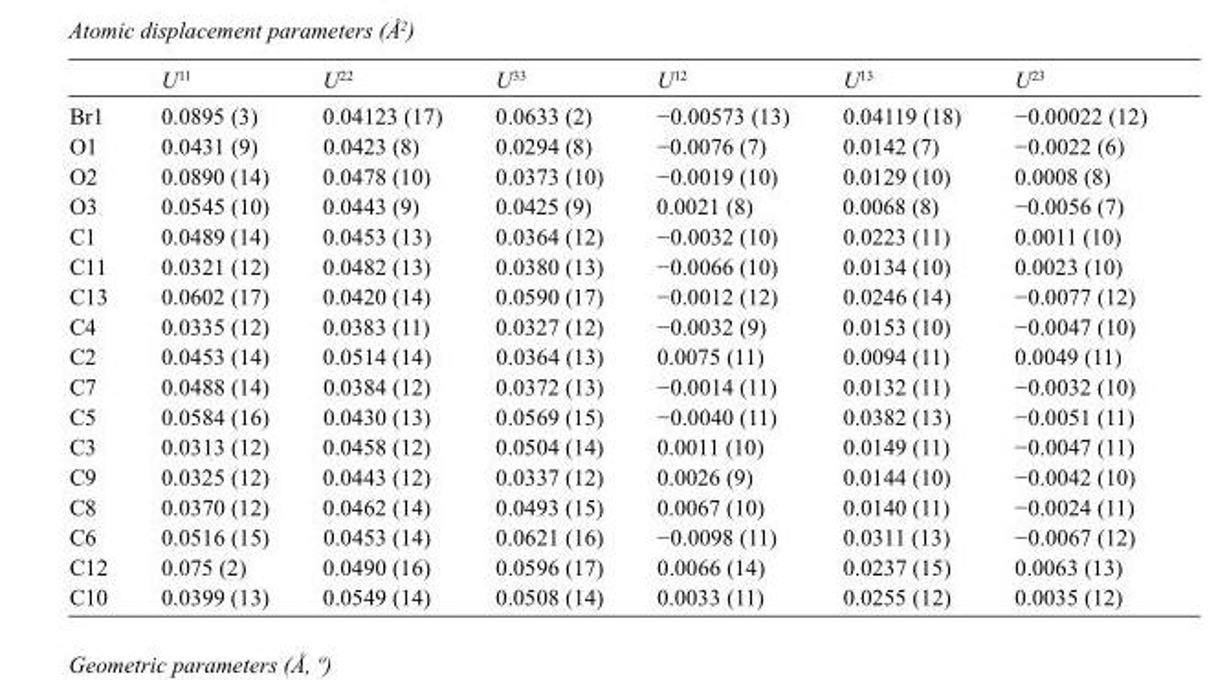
<table><thead><tr><td></td><td>U<sup>11</sup></td><td>U<sup>22</sup></td><td>U<sup>33</sup></td><td>U<sup>12</sup></td><td>U<sup>13</sup></td><td>U<sup>23</sup></td></tr></thead><tbody><tr><td>Br1</td><td>0.0895 (3)</td><td>0.04123 (17)</td><td>0.0633 (2)</td><td>−0.00573 (13)</td><td>0.04119 (18)</td><td>−0.00022 (12)</td></tr><tr><td>O1</td><td>0.0431 (9)</td><td>0.0423 (8)</td><td>0.0294 (8)</td><td>−0.0076 (7)</td><td>0.0142 (7)</td><td>−0.0022 (6)</td></tr><tr><td>O2</td><td>0.0890 (14)</td><td>0.0478 (10)</td><td>0.0373 (10)</td><td>−0.0019 (10)</td><td>0.0129 (10)</td><td>0.0008 (8)</td></tr><tr><td>O3</td><td>0.0545 (10)</td><td>0.0443 (9)</td><td>0.0425 (9)</td><td>0.0021 (8)</td><td>0.0068 (8)</td><td>−0.0056 (7)</td></tr><tr><td>C1</td><td>0.0489 (14)</td><td>0.0453 (13)</td><td>0.0364 (12)</td><td>−0.0032 (10)</td><td>0.0223 (11)</td><td>0.0011 (10)</td></tr><tr><td>C11</td><td>0.0321 (12)</td><td>0.0482 (13)</td><td>0.0380 (13)</td><td>−0.0066 (10)</td><td>0.0134 (10)</td><td>0.0023 (10)</td></tr><tr><td>C13</td><td>0.0602 (17)</td><td>0.0420 (14)</td><td>0.0590 (17)</td><td>−0.0012 (12)</td><td>0.0246 (14)</td><td>−0.0077 (12)</td></tr><tr><td>C4</td><td>0.0335 (12)</td><td>0.0383 (11)</td><td>0.0327 (12)</td><td>−0.0032 (9)</td><td>0.0153 (10)</td><td>−0.0047 (10)</td></tr><tr><td>C2</td><td>0.0453 (14)</td><td>0.0514 (14)</td><td>0.0364 (13)</td><td>0.0075 (11)</td><td>0.0094 (11)</td><td>0.0049 (11)</td></tr><tr><td>C7</td><td>0.0488 (14)</td><td>0.0384 (12)</td><td>0.0372 (13)</td><td>−0.0014 (11)</td><td>0.0132 (11)</td><td>−0.0032 (10)</td></tr><tr><td>C5</td><td>0.0584 (16)</td><td>0.0430 (13)</td><td>0.0569 (15)</td><td>−0.0040 (11)</td><td>0.0382 (13)</td><td>−0.0051 (11)</td></tr><tr><td>C3</td><td>0.0313 (12)</td><td>0.0458 (12)</td><td>0.0504 (14)</td><td>0.0011 (10)</td><td>0.0149 (11)</td><td>−0.0047 (11)</td></tr><tr><td>C9</td><td>0.0325 (12)</td><td>0.0443 (12)</td><td>0.0337 (12)</td><td>0.0026 (9)</td><td>0.0144 (10)</td><td>−0.0042 (10)</td></tr><tr><td>C8</td><td>0.0370 (12)</td><td>0.0462 (14)</td><td>0.0493 (15)</td><td>0.0067 (10)</td><td>0.0140 (11)</td><td>−0.0024 (11)</td></tr><tr><td>C6</td><td>0.0516 (15)</td><td>0.0453 (14)</td><td>0.0621 (16)</td><td>−0.0098 (11)</td><td>0.0311 (13)</td><td>−0.0067 (12)</td></tr><tr><td>C12</td><td>0.075 (2)</td><td>0.0490 (16)</td><td>0.0596 (17)</td><td>0.0066 (14)</td><td>0.0237 (15)</td><td>0.0063 (13)</td></tr><tr><td>C10</td><td>0.0399 (13)</td><td>0.0549 (14)</td><td>0.0508 (14)</td><td>0.0033 (11)</td><td>0.0255 (12)</td><td>0.0035 (12)</td></tr></tbody></table>